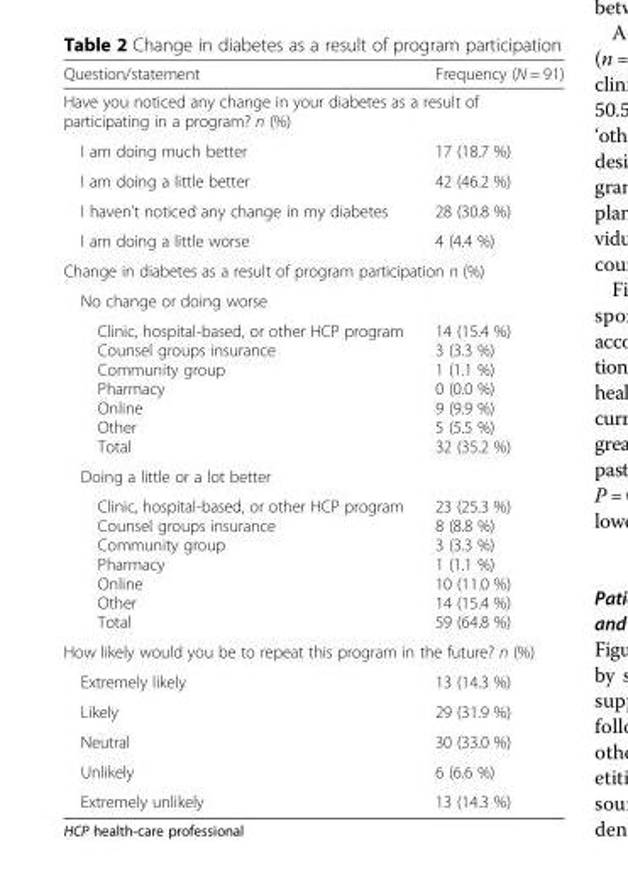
<table><thead><tr><td>Question/statement</td><td>Frequency (N = 91)</td></tr></thead><tbody><tr><td colspan="2">Have you noticed any change in your diabetes as a result of participating in a program? n (%)</td></tr><tr><td>I am doing much better</td><td>17 (18.7 %)</td></tr><tr><td>I am doing a little better</td><td>42 (46.2 %)</td></tr><tr><td>I haven’t noticed any change in my diabetes</td><td>28 (30.8 %)</td></tr><tr><td>I am doing a little worse</td><td>4 (4.4 %)</td></tr><tr><td colspan="2">Change in diabetes as a result of program participation n (%)</td></tr><tr><td colspan="2">No change or doing worse</td></tr><tr><td>Clinic, hospital-based, or other HCP program Counsel groups insurance Community group Pharmacy Online Other Total</td><td>14 (15.4 %) 3 (3.3 %) 1 (1.1 %) 0 (0.0 %) 9 (9.9 %) 5 (5.5 %) 32 (35.2 %)</td></tr><tr><td colspan="2">Doing a little or a lot better</td></tr><tr><td>Clinic, hospital-based, or other HCP program Counsel groups insurance Community group Pharmacy Online Other Total</td><td>23 (25.3 %) 8 (8.8 %) 3 (3.3 %) 1 (1.1 %) 10 (11.0 %) 14 (15.4 %) 59 (64.8 %)</td></tr><tr><td colspan="2">How likely would you be to repeat this program in the future? n (%)</td></tr><tr><td>Extremely likely</td><td>13 (14.3 %)</td></tr><tr><td>Likely</td><td>29 (31.9 %)</td></tr><tr><td>Neutral</td><td>30 (33.0 %)</td></tr><tr><td>Unlikely</td><td>6 (6.6 %)</td></tr><tr><td>Extremely unlikely</td><td>13 (14.3 %)</td></tr></tbody></table>